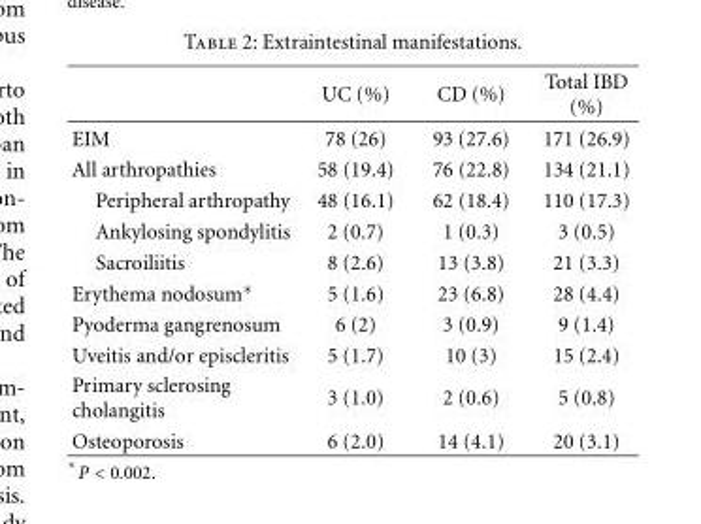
<table><thead><tr><td></td><td>UC (%)</td><td>CD (%)</td><td>Total IBD (%)</td></tr></thead><tbody><tr><td>EIM</td><td>78 (26)</td><td>93 (27.6)</td><td>171 (26.9)</td></tr><tr><td>All arthropathies</td><td>58 (19.4)</td><td>76 (22.8)</td><td>134 (21.1)</td></tr><tr><td>Peripheral arthropathy</td><td>48 (16.1)</td><td>62 (18.4)</td><td>110 (17.3)</td></tr><tr><td>Ankylosing spondylitis</td><td>2 (0.7)</td><td>1 (0.3)</td><td>3 (0.5)</td></tr><tr><td>Sacroiliitis</td><td>8 (2.6)</td><td>13 (3.8)</td><td>21 (3.3)</td></tr><tr><td>Erythema nodosum∗</td><td>5 (1.6)</td><td>23 (6.8)</td><td>28 (4.4)</td></tr><tr><td>Pyoderma gangrenosum</td><td>6 (2)</td><td>3 (0.9)</td><td>9 (1.4)</td></tr><tr><td>Uveitis and/or episcleritis</td><td>5 (1.7)</td><td>10 (3)</td><td>15 (2.4)</td></tr><tr><td>Primary sclerosing cholangitis</td><td>3 (1.0)</td><td>2 (0.6)</td><td>5 (0.8)</td></tr><tr><td>Osteoporosis</td><td>6 (2.0)</td><td>14 (4.1)</td><td>20 (3.1)</td></tr></tbody></table>